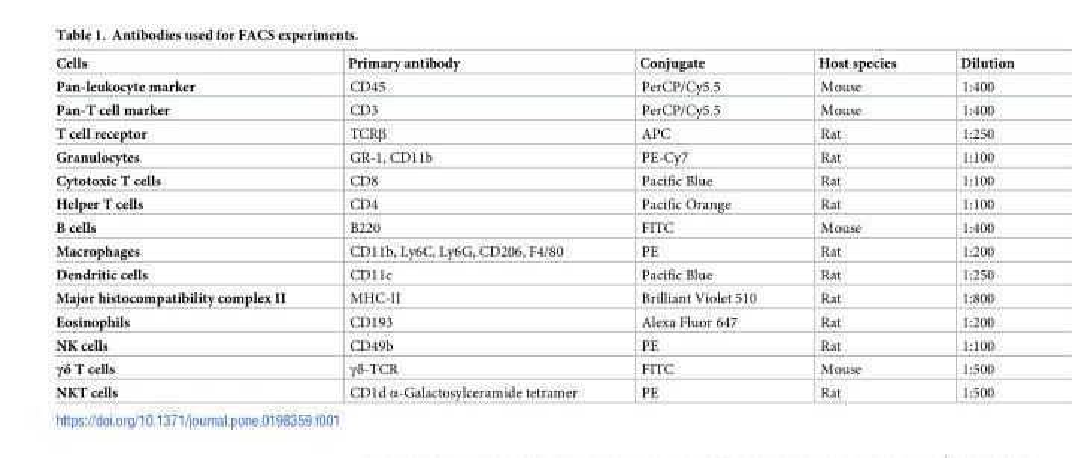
<table><thead><tr><td>Cells</td><td>Primary antibody</td><td>Conjugate</td><td>Host species</td><td>Dilution</td></tr></thead><tbody><tr><td>Pan-leukocyte marker</td><td>CD45</td><td>PerCP/Cy5.5</td><td>Mouse</td><td>1:400</td></tr><tr><td>Pan-T cell marker</td><td>CD3</td><td>PerCP/Cy5.5</td><td>Mouse</td><td>1:400</td></tr><tr><td>T cell receptor</td><td>TCRβ</td><td>APC</td><td>Rat</td><td>1:250</td></tr><tr><td>Granulocytes</td><td>GR-1, CD11b</td><td>PE-Cy7</td><td>Rat</td><td>1:100</td></tr><tr><td>Cytotoxic T cells</td><td>CD8</td><td>Pacific Blue</td><td>Rat</td><td>1:100</td></tr><tr><td>Helper T cells</td><td>CD4</td><td>Pacific Orange</td><td>Rat</td><td>1:100</td></tr><tr><td>B cells</td><td>B220</td><td>FITC</td><td>Mouse</td><td>1:400</td></tr><tr><td>Macrophages</td><td>CD11b, Ly6C, Ly6G, CD206, F4/80</td><td>PE</td><td>Rat</td><td>1:200</td></tr><tr><td>Dendritic cells</td><td>CD11c</td><td>Pacific Blue</td><td>Rat</td><td>1:250</td></tr><tr><td>Major histocompatibility complex II</td><td>MHC-II</td><td>Brilliant Violet 510</td><td>Rat</td><td>1:800</td></tr><tr><td>Eosinophils</td><td>CD193</td><td>Alexa Fluor 647</td><td>Rat</td><td>1:200</td></tr><tr><td>NK cells</td><td>CD49b</td><td>PE</td><td>Rat</td><td>1:100</td></tr><tr><td>γδ T cells</td><td>γδ-TCR</td><td>FITC</td><td>Mouse</td><td>1:500</td></tr><tr><td>NKT cells</td><td>CD1d α-Galactosylceramide tetramer</td><td>PE</td><td>Rat</td><td>1:500</td></tr></tbody></table>